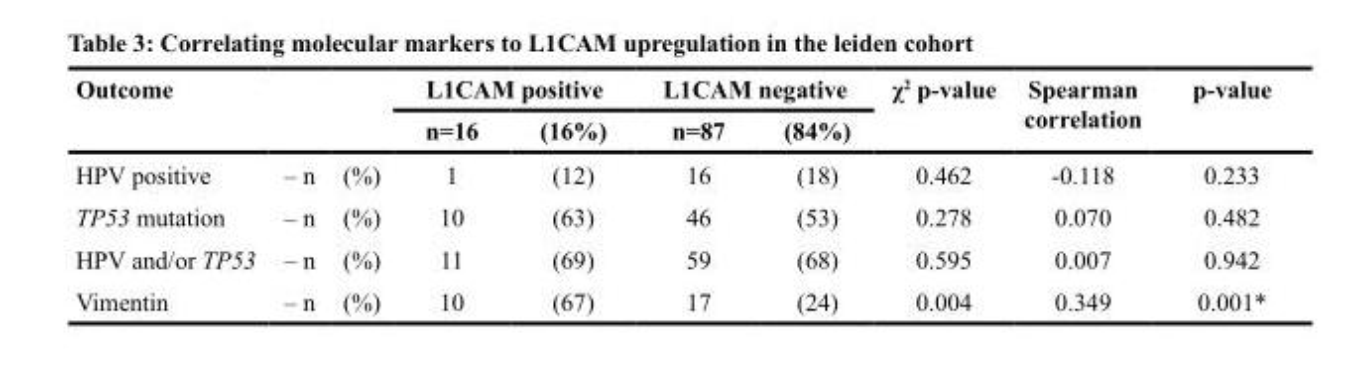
<table><thead><tr><td rowspan="2" colspan="3">Outcome</td><td colspan="2">L1CAM positive</td><td colspan="2">L1CAM negative</td><td rowspan="3">χ<sup>2</sup> p-value 0.462</td><td rowspan="3">Spearman correlation -0.118</td><td rowspan="3">p-value 0.233</td></tr><tr><td rowspan="2">n=16 1</td><td rowspan="2">(16%) (12)</td><td rowspan="2">n=87 16</td><td rowspan="2">(84%) (18)</td></tr><tr><td>HPV positive</td><td>– n</td><td>(%)</td></tr></thead><tbody><tr><td>TP53 mutation</td><td>– n</td><td>(%)</td><td>10</td><td>(63)</td><td>46</td><td>(53)</td><td>0.278</td><td>0.070</td><td>0.482</td></tr><tr><td>HPV and/or TP53</td><td>– n</td><td>(%)</td><td>11</td><td>(69)</td><td>59</td><td>(68)</td><td>0.595</td><td>0.007</td><td>0.942</td></tr><tr><td>Vimentin</td><td>– n</td><td>(%)</td><td>10</td><td>(67)</td><td>17</td><td>(24)</td><td>0.004</td><td>0.349</td><td>0.001*</td></tr></tbody></table>